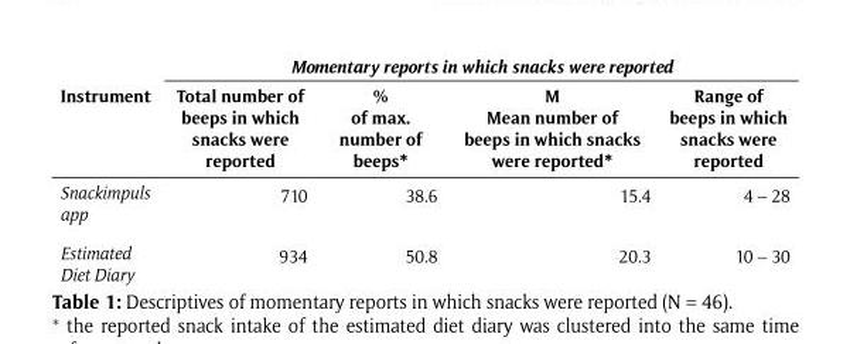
<table><thead><tr><td rowspan="2">Instrument</td><td colspan="4">Momentary reports in which snacks were reported</td></tr><tr><td>Total number of beeps in which snacks were reported</td><td>% of max. number of beeps*</td><td>M Mean number of beeps in which snacks were reported*</td><td>Range of beeps in which snacks were reported</td></tr></thead><tbody><tr><td>Snackimpuls app</td><td>710</td><td>38.6</td><td>15.4</td><td>4 – 28</td></tr><tr><td>Estimated Diet Diary</td><td>934</td><td>50.8</td><td>20.3</td><td>10 – 30</td></tr></tbody></table>